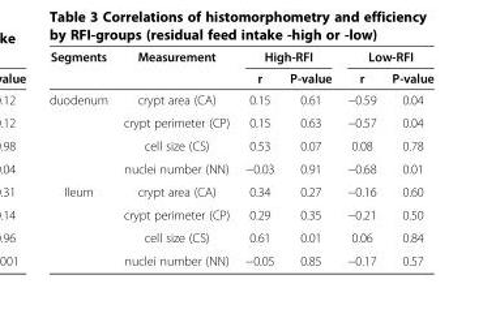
<table><thead><tr><td rowspan="2">Segments</td><td rowspan="2">Measurement</td><td colspan="2">High-RFI</td><td colspan="2">Low-RFI</td></tr><tr><td>r</td><td>P-value</td><td>r</td><td>P-value</td></tr></thead><tbody><tr><td rowspan="4">duodenum</td><td>crypt area (CA)</td><td>0.15</td><td>0.61</td><td>−0.59</td><td>0.04</td></tr><tr><td>crypt perimeter (CP)</td><td>0.15</td><td>0.63</td><td>−0.57</td><td>0.04</td></tr><tr><td>cell size (CS)</td><td>0.53</td><td>0.07</td><td>0.08</td><td>0.78</td></tr><tr><td>nuclei number (NN)</td><td>−0.03</td><td>0.91</td><td>−0.68</td><td>0.01</td></tr><tr><td rowspan="4">Ileum</td><td>crypt area (CA)</td><td>0.34</td><td>0.27</td><td>−0.16</td><td>0.60</td></tr><tr><td>crypt perimeter (CP)</td><td>0.29</td><td>0.35</td><td>−0.21</td><td>0.50</td></tr><tr><td>cell size (CS)</td><td>0.61</td><td>0.01</td><td>0.06</td><td>0.84</td></tr><tr><td>nuclei number (NN)</td><td>−0.05</td><td>0.85</td><td>−0.17</td><td>0.57</td></tr></tbody></table>